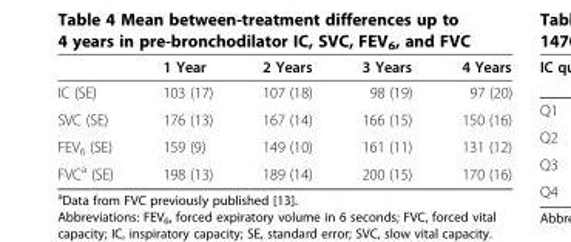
<table><thead><tr><td></td><td>1 Year</td><td>2 Years</td><td>3 Years</td><td>4 Years</td></tr></thead><tbody><tr><td>IC (SE)</td><td>103 (17)</td><td>107 (18)</td><td>98 (19)</td><td>97 (20)</td></tr><tr><td>SVC (SE)</td><td>176 (13)</td><td>167 (14)</td><td>166 (15)</td><td>150 (16)</td></tr><tr><td>FEV<sub>6</sub> (SE)</td><td>159 (9)</td><td>149 (10)</td><td>161 (11)</td><td>131 (12)</td></tr><tr><td>FVC<sup>a</sup> (SE)</td><td>198 (13)</td><td>189 (14)</td><td>200 (15)</td><td>170 (16)</td></tr></tbody></table>